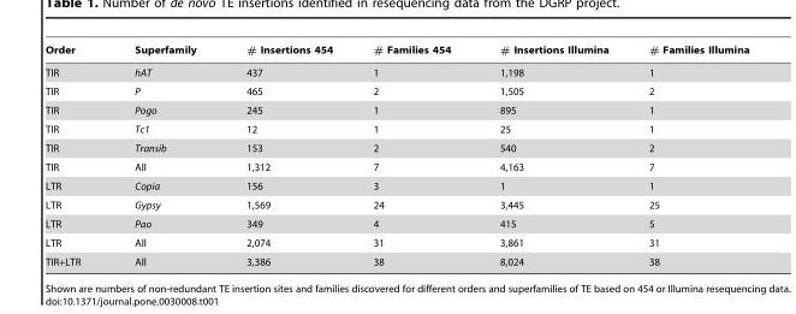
<table><thead><tr><td>Order</td><td>Superfamily</td><td># Insertions 454</td><td># Families 454</td><td># Insertions Illumina</td><td># Families Illumina</td></tr></thead><tbody><tr><td>TIR</td><td>hAT</td><td>437</td><td>1</td><td>1,198</td><td>1</td></tr><tr><td>TIR</td><td>P</td><td>465</td><td>2</td><td>1,505</td><td>2</td></tr><tr><td>TIR</td><td>Pogo</td><td>245</td><td>1</td><td>895</td><td>1</td></tr><tr><td>TIR</td><td>Tc1</td><td>12</td><td>1</td><td>25</td><td>1</td></tr><tr><td>TIR</td><td>Transib</td><td>153</td><td>2</td><td>540</td><td>2</td></tr><tr><td>TIR</td><td>All</td><td>1,312</td><td>7</td><td>4,163</td><td>7</td></tr><tr><td>LTR</td><td>Copia</td><td>156</td><td>3</td><td>1</td><td>1</td></tr><tr><td>LTR</td><td>Gypsy</td><td>1,569</td><td>24</td><td>3,445</td><td>25</td></tr><tr><td>LTR</td><td>Pao</td><td>349</td><td>4</td><td>415</td><td>5</td></tr><tr><td>LTR</td><td>All</td><td>2,074</td><td>31</td><td>3,861</td><td>31</td></tr><tr><td>TIR+LTR</td><td>All</td><td>3,386</td><td>38</td><td>8,024</td><td>38</td></tr></tbody></table>